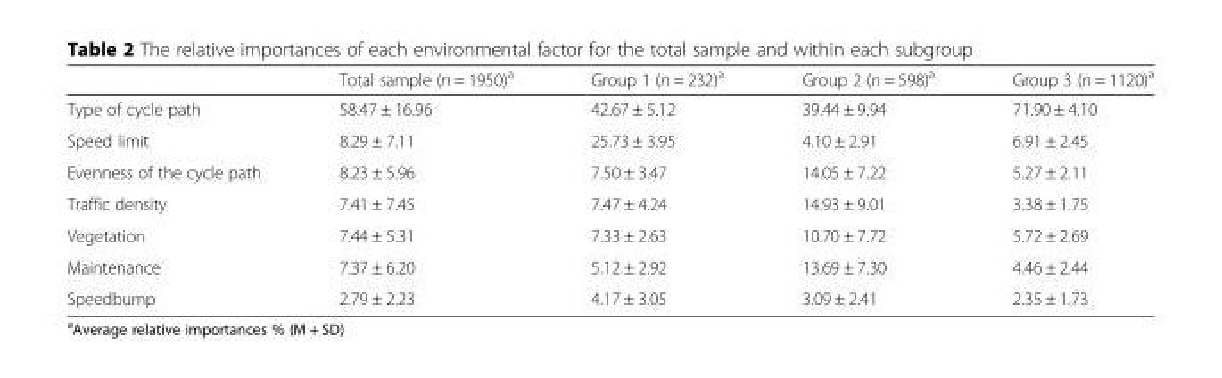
<table><thead><tr><td></td><td>Total sample (n = 1950)<sup>a</sup></td><td>Group 1 (n = 232)<sup>a</sup></td><td>Group 2 (n = 598)<sup>a</sup></td><td>Group 3 (n = 1120)<sup>a</sup></td></tr></thead><tbody><tr><td>Type of cycle path</td><td>58.47 ± 16.96</td><td>42.67 ± 5.12</td><td>39.44 ± 9.94</td><td>71.90 ± 4.10</td></tr><tr><td>Speed limit</td><td>8.29 ± 7.11</td><td>25.73 ± 3.95</td><td>4.10 ± 2.91</td><td>6.91 ± 2.45</td></tr><tr><td>Evenness of the cycle path</td><td>8.23 ± 5.96</td><td>7.50 ± 3.47</td><td>14.05 ± 7.22</td><td>5.27 ± 2.11</td></tr><tr><td>Traffic density</td><td>7.41 ± 7.45</td><td>7.47 ± 4.24</td><td>14.93 ± 9.01</td><td>3.38 ± 1.75</td></tr><tr><td>Vegetation</td><td>7.44 ± 5.31</td><td>7.33 ± 2.63</td><td>10.70 ± 7.72</td><td>5.72 ± 2.69</td></tr><tr><td>Maintenance</td><td>7.37 ± 6.20</td><td>5.12 ± 2.92</td><td>13.69 ± 7.30</td><td>4.46 ± 2.44</td></tr><tr><td>Speedbump</td><td>2.79 ± 2.23</td><td>4.17 ± 3.05</td><td>3.09 ± 2.41</td><td>2.35 ± 1.73</td></tr></tbody></table>